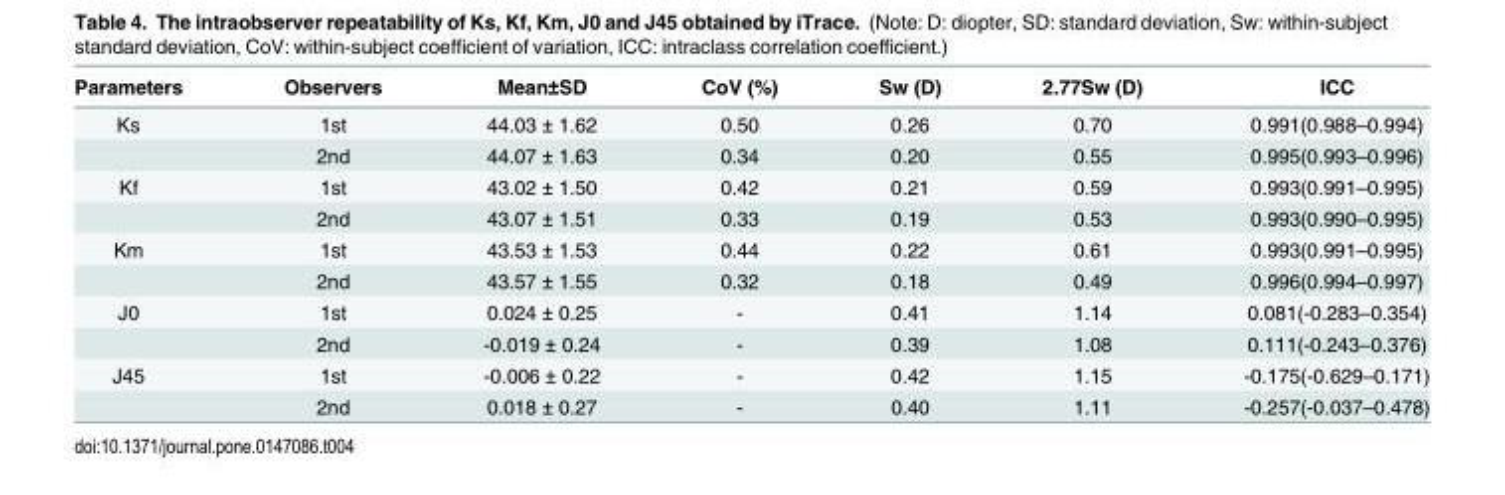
<table><thead><tr><td>Parameters</td><td>Observers</td><td>Mean±SD</td><td>CoV (%)</td><td>Sw (D)</td><td>2.77Sw (D)</td><td>ICC</td></tr></thead><tbody><tr><td rowspan="2">Ks</td><td>1st</td><td>44.03 ± 1.62</td><td>0.50</td><td>0.26</td><td>0.70</td><td>0.991(0.988–0.994)</td></tr><tr><td>2nd</td><td>44.07 ± 1.63</td><td>0.34</td><td>0.20</td><td>0.55</td><td>0.995(0.993–0.996)</td></tr><tr><td rowspan="2">Kf</td><td>1st</td><td>43.02 ± 1.50</td><td>0.42</td><td>0.21</td><td>0.59</td><td>0.993(0.991–0.995)</td></tr><tr><td>2nd</td><td>43.07 ± 1.51</td><td>0.33</td><td>0.19</td><td>0.53</td><td>0.993(0.990–0.995)</td></tr><tr><td rowspan="2">Km</td><td>1st</td><td>43.53 ± 1.53</td><td>0.44</td><td>0.22</td><td>0.61</td><td>0.993(0.991–0.995)</td></tr><tr><td>2nd</td><td>43.57 ± 1.55</td><td>0.32</td><td>0.18</td><td>0.49</td><td>0.996(0.994–0.997)</td></tr><tr><td rowspan="2">J0</td><td>1st</td><td>0.024 ± 0.25</td><td>-</td><td>0.41</td><td>1.14</td><td>0.081(-0.283–0.354)</td></tr><tr><td>2nd</td><td>-0.019 ± 0.24</td><td>-</td><td>0.39</td><td>1.08</td><td>0.111(-0.243–0.376)</td></tr><tr><td rowspan="2">J45</td><td>1st</td><td>-0.006 ± 0.22</td><td>-</td><td>0.42</td><td>1.15</td><td>-0.175(-0.629–0.171)</td></tr><tr><td>2nd</td><td>0.018 ± 0.27</td><td>-</td><td>0.40</td><td>1.11</td><td>-0.257(-0.037–0.478)</td></tr></tbody></table>